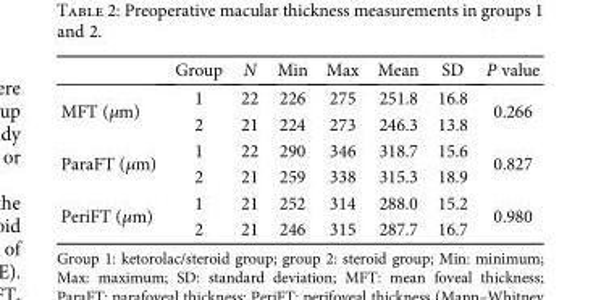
<table><thead><tr><td></td><td>Group</td><td>N</td><td>Min</td><td>Max</td><td>Mean</td><td>SD</td><td>P value</td></tr></thead><tbody><tr><td rowspan="2">MFT (μm)</td><td>1</td><td>22</td><td>226</td><td>275</td><td>251.8</td><td>16.8</td><td rowspan="2">0.266</td></tr><tr><td>2</td><td>21</td><td>224</td><td>273</td><td>246.3</td><td>13.8</td></tr><tr><td rowspan="2">ParaFT (μm)</td><td>1</td><td>22</td><td>290</td><td>346</td><td>318.7</td><td>15.6</td><td rowspan="2">0.827</td></tr><tr><td>2</td><td>21</td><td>259</td><td>338</td><td>315.3</td><td>18.9</td></tr><tr><td rowspan="2">PeriFT (μm)</td><td>1</td><td>21</td><td>252</td><td>314</td><td>288.0</td><td>15.2</td><td rowspan="2">0.980</td></tr><tr><td>2</td><td>21</td><td>246</td><td>315</td><td>287.7</td><td>16.7</td></tr></tbody></table>